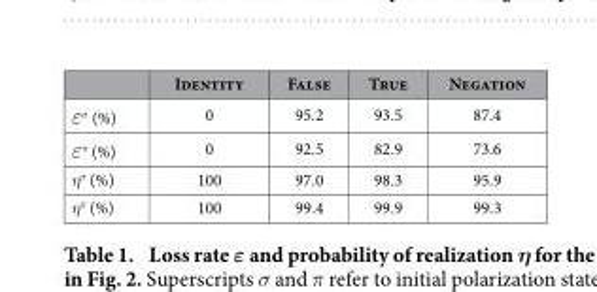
<table><thead><tr><td></td><td>Identity</td><td>False</td><td>True</td><td>Negation</td></tr></thead><tbody><tr><td>ε<sup>σ</sup> (%)</td><td>0</td><td>95.2</td><td>93.5</td><td>87.4</td></tr><tr><td>ε<sup>π</sup> (%)</td><td>0</td><td>92.5</td><td>82.9</td><td>73.6</td></tr><tr><td>η<sup>σ</sup> (%)</td><td>100</td><td>97.0</td><td>98.3</td><td>95.9</td></tr><tr><td>η<sup>π</sup> (%)</td><td>100</td><td>99.4</td><td>99.9</td><td>99.3</td></tr></tbody></table>